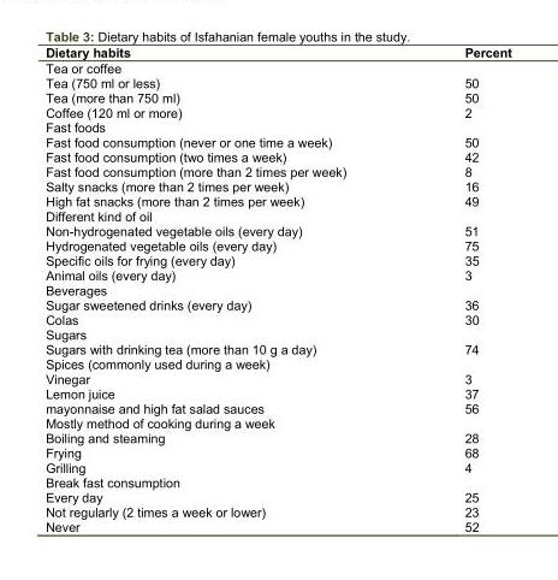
<table><thead><tr><td>Dietary habits</td><td>Percent</td></tr></thead><tbody><tr><td colspan="2">Tea or coffee</td></tr><tr><td>Tea (750 ml or less)</td><td>50</td></tr><tr><td>Tea (more than 750 ml)</td><td>50</td></tr><tr><td>Coffee (120 ml or more)</td><td>2</td></tr><tr><td colspan="2">Fast foods</td></tr><tr><td>Fast food consumption (never or one time a week)</td><td>50</td></tr><tr><td>Fast food consumption (two times a week)</td><td>42</td></tr><tr><td>Fast food consumption (more than 2 times per week)</td><td>8</td></tr><tr><td>Salty snacks (more than 2 times per week)</td><td>16</td></tr><tr><td>High fat snacks (more than 2 times per week)</td><td>49</td></tr><tr><td colspan="2">Different kind of oil</td></tr><tr><td>Non-hydrogenated vegetable oils (every day)</td><td>51</td></tr><tr><td>Hydrogenated vegetable oils (every day)</td><td>75</td></tr><tr><td>Specific oils for frying (every day)</td><td>35</td></tr><tr><td>Animal oils (every day)</td><td>3</td></tr><tr><td colspan="2">Beverages</td></tr><tr><td>Sugar sweetened drinks (every day)</td><td>36</td></tr><tr><td>Colas</td><td>30</td></tr><tr><td colspan="2">Sugars</td></tr><tr><td>Sugars with drinking tea (more than 10 g a day)</td><td>74</td></tr><tr><td colspan="2">Spices (commonly used during a week)</td></tr><tr><td>Vinegar</td><td>3</td></tr><tr><td>Lemon juice</td><td>37</td></tr><tr><td>mayonnaise and high fat salad sauces</td><td>56</td></tr><tr><td colspan="2">Mostly method of cooking during a week</td></tr><tr><td>Boiling and steaming</td><td>28</td></tr><tr><td>Frying</td><td>68</td></tr><tr><td>Grilling</td><td>4</td></tr><tr><td colspan="2">Break fast consumption</td></tr><tr><td>Every day</td><td>25</td></tr><tr><td>Not regularly (2 times a week or lower)</td><td>23</td></tr><tr><td>Never</td><td>52</td></tr></tbody></table>